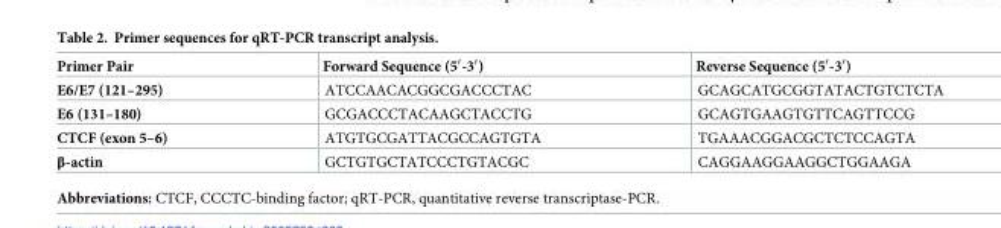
<table><thead><tr><td>Primer Pair</td><td>Forward Sequence (5′-3′)</td><td>Reverse Sequence (5′-3′)</td></tr></thead><tbody><tr><td>E6/E7 (121–295)</td><td>ATCCAACACGGCGACCCTAC</td><td>GCAGCATGCGGTATACTGTCTCTA</td></tr><tr><td>E6 (131–180)</td><td>GCGACCCTACAAGCTACCTG</td><td>GCAGTGAAGTGTTCAGTTCCG</td></tr><tr><td>CTCF (exon 5–6)</td><td>ATGTGCGATTACGCCAGTGTA</td><td>TGAAACGGACGCTCTCCAGTA</td></tr><tr><td>β-actin</td><td>GCTGTGCTATCCCTGTACGC</td><td>CAGGAAGGAAGGCTGGAAGA</td></tr></tbody></table>